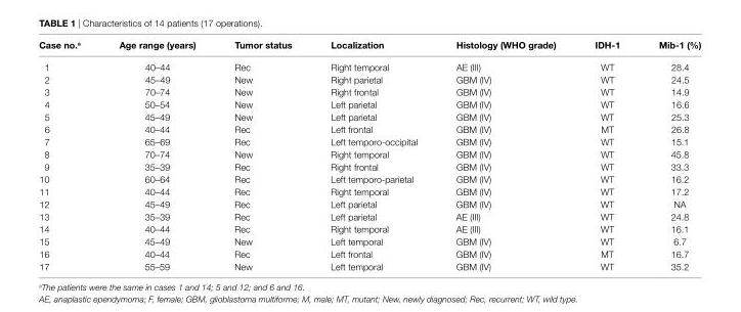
<table><thead><tr><td>case no.<sup>a</sup></td><td>age range (years)</td><td>Tumor status</td><td>localization</td><td>histology (WhO grade)</td><td>iDh-1</td><td>Mib-1 (%)</td></tr></thead><tbody><tr><td>1</td><td>40–44</td><td>Rec</td><td>Right temporal</td><td>AE (III)</td><td>WT</td><td>28.4</td></tr><tr><td>2</td><td>45–49</td><td>New</td><td>Right parietal</td><td>GBM (IV)</td><td>WT</td><td>24.5</td></tr><tr><td>3</td><td>70–74</td><td>New</td><td>Right frontal</td><td>GBM (IV)</td><td>WT</td><td>14.9</td></tr><tr><td>4</td><td>50–54</td><td>New</td><td>Left parietal</td><td>GBM (IV)</td><td>WT</td><td>16.6</td></tr><tr><td>5</td><td>45–49</td><td>New</td><td>Left parietal</td><td>GBM (IV)</td><td>WT</td><td>25.3</td></tr><tr><td>6</td><td>40–44</td><td>Rec</td><td>Left frontal</td><td>GBM (IV)</td><td>MT</td><td>26.8</td></tr><tr><td>7</td><td>65–69</td><td>Rec</td><td>Left temporo-occipital</td><td>GBM (IV)</td><td>WT</td><td>15.1</td></tr><tr><td>8</td><td>70–74</td><td>New</td><td>Right temporal</td><td>GBM (IV)</td><td>WT</td><td>45.8</td></tr><tr><td>9</td><td>35–39</td><td>Rec</td><td>Right frontal</td><td>GBM (IV)</td><td>WT</td><td>33.3</td></tr><tr><td>10</td><td>60–64</td><td>Rec</td><td>Left temporo-parietal</td><td>GBM (IV)</td><td>WT</td><td>16.2</td></tr><tr><td>11</td><td>40–44</td><td>Rec</td><td>Right temporal</td><td>GBM (IV)</td><td>WT</td><td>17.2</td></tr><tr><td>12</td><td>45–49</td><td>Rec</td><td>Left parietal</td><td>GBM (IV)</td><td>WT</td><td>NA</td></tr><tr><td>13</td><td>35–39</td><td>Rec</td><td>Left parietal</td><td>AE (III)</td><td>WT</td><td>24.8</td></tr><tr><td>14</td><td>40–44</td><td>Rec</td><td>Right temporal</td><td>AE (III)</td><td>WT</td><td>16.1</td></tr><tr><td>15</td><td>45–49</td><td>New</td><td>Left temporal</td><td>GBM (IV)</td><td>WT</td><td>6.7</td></tr><tr><td>16</td><td>40–44</td><td>Rec</td><td>Left frontal</td><td>GBM (IV)</td><td>MT</td><td>16.7</td></tr><tr><td>17</td><td>55–59</td><td>New</td><td>Left temporal</td><td>GBM (IV)</td><td>WT</td><td>35.2</td></tr></tbody></table>